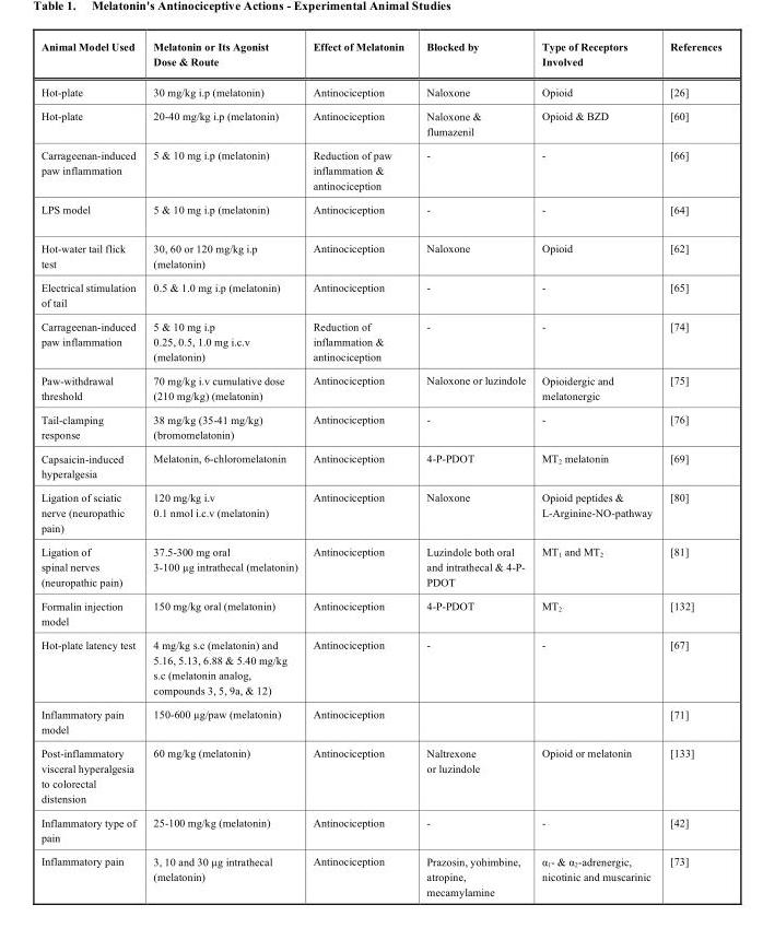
<table><thead><tr><td>Animal Model Used</td><td>Melatonin or Its Agonist Dose &amp; Route</td><td>Effect of Melatonin</td><td>Blocked by</td><td>Type of Receptors Involved</td><td>References</td></tr></thead><tbody><tr><td>Hot-plate</td><td>30 mg/kg i.p (melatonin)</td><td>Antinociception</td><td>Naloxone</td><td>Opioid</td><td>[26]</td></tr><tr><td>Hot-plate</td><td>20-40 mg/kg i.p (melatonin)</td><td>Antinociception</td><td>Naloxone &amp; flumazenil</td><td>Opioid &amp; BZD</td><td>[60]</td></tr><tr><td>Carrageenan-induced paw inflammation</td><td>5 &amp; 10 mg i.p (melatonin)</td><td>Reduction of paw inflammation &amp; antinociception</td><td>-</td><td>-</td><td>[66]</td></tr><tr><td>LPS model</td><td>5 &amp; 10 mg i.p (melatonin)</td><td>Antinociception</td><td>-</td><td>-</td><td>[64]</td></tr><tr><td>Hot-water tail flick test</td><td>30, 60 or 120 mg/kg i.p (melatonin)</td><td>Antinociception</td><td>Naloxone</td><td>Opioid</td><td>[62]</td></tr><tr><td>Electrical stimulation of tail</td><td>0.5 &amp; 1.0 mg i.p (melatonin)</td><td>Antinociception</td><td>-</td><td>-</td><td>[65]</td></tr><tr><td>Carrageenan-induced paw inflammation</td><td>5 &amp; 10 mg i.p 0.25, 0.5, 1.0 mg i.c.v (melatonin)</td><td>Reduction of inflammation &amp; antinociception</td><td>-</td><td>-</td><td>[74]</td></tr><tr><td>Paw-withdrawal threshold</td><td>70 mg/kg i.v cumulative dose (210 mg/kg) (melatonin)</td><td>Antinociception</td><td>Naloxone or luzindole</td><td>Opioidergic and melatonergic</td><td>[75]</td></tr><tr><td>Tail-clamping response</td><td>38 mg/kg (35-41 mg/kg) (bromomelatonin)</td><td>Antinociception</td><td>-</td><td>-</td><td>[76]</td></tr><tr><td>Capsaicin-induced hyperalgesia</td><td>Melatonin, 6-chloromelatonin</td><td>Antinociception</td><td>4-P-PDOT</td><td>MT<sub>2</sub> melatonin</td><td>[69]</td></tr><tr><td>Ligation of sciatic nerve (neuropathic pain)</td><td>120 mg/kg i.v 0.1 nmol i.c.v (melatonin)</td><td>Antinociception</td><td>Naloxone</td><td>Opioid peptides &amp; L-Arginine-NO-pathway</td><td>[80]</td></tr><tr><td>Ligation of spinal nerves (neuropathic pain)</td><td>37.5-300 mg oral 3-100 µg intrathecal (melatonin)</td><td>Antinociception</td><td>Luzindole both oral and intrathecal &amp; 4-P- PDOT</td><td>MT<sub>1</sub> and MT<sub>2</sub></td><td>[81]</td></tr><tr><td>Formalin injection model</td><td>150 mg/kg oral (melatonin)</td><td>Antinociception</td><td>4-P-PDOT</td><td>MT<sub>2</sub></td><td>[132]</td></tr><tr><td>Hot-plate latency test</td><td>4 mg/kg s.c (melatonin) and 5.16, 5.13, 6.88 &amp; 5.40 mg/kg s.c (melatonin analog, compounds 3, 5, 9a, &amp; 12)</td><td>Antinociception</td><td>-</td><td>-</td><td>[67]</td></tr><tr><td>Inflammatory pain model</td><td>150-600 µg/paw (melatonin)</td><td>Antinociception</td><td></td><td></td><td>[71]</td></tr><tr><td>Post-inflammatory visceral hyperalgesia to colorectal distension</td><td>60 mg/kg (melatonin)</td><td>Antinociception</td><td>Naltrexone or luzindole</td><td>Opioid or melatonin</td><td>[133]</td></tr><tr><td>Inflammatory type of pain</td><td>25-100 mg/kg (melatonin)</td><td>Antinociception</td><td>-</td><td>-</td><td>[42]</td></tr><tr><td>Inflammatory pain</td><td>3, 10 and 30 µg intrathecal (melatonin)</td><td>Antinociception</td><td>Prazosin, yohimbine, atropine, mecamylamine</td><td>α<sub>1</sub>- &amp; α<sub>2</sub>-adrenergic, nicotinic and muscarinic</td><td>[73]</td></tr></tbody></table>